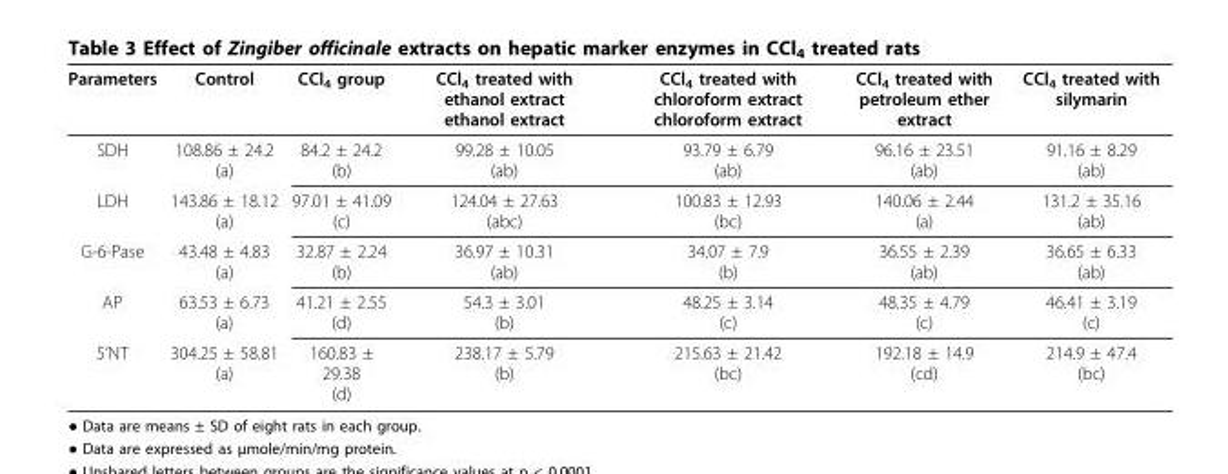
<table><thead><tr><td>Parameters</td><td>Control</td><td>CCl<sub>4</sub> group</td><td>CCl<sub>4</sub> treated with ethanol extract ethanol extract</td><td>CCl<sub>4</sub> treated with chloroform extract chloroform extract</td><td>CCl<sub>4</sub> treated with petroleum ether extract</td><td>CCl<sub>4</sub> treated with silymarin</td></tr></thead><tbody><tr><td>SDH</td><td>108.86 ± 24.2 (a)</td><td>84.2 ± 24.2 (b)</td><td>99.28 ± 10.05 (ab)</td><td>93.79 ± 6.79 (ab)</td><td>96.16 ± 23.51 (ab)</td><td>91.16 ± 8.29 (ab)</td></tr><tr><td>LDH</td><td>143.86 ± 18.12 (a)</td><td>97.01 ± 41.09 (c)</td><td>124.04 ± 27.63 (abc)</td><td>100.83 ± 12.93 (bc)</td><td>140.06 ± 2.44 (a)</td><td>131.2 ± 35.16 (ab)</td></tr><tr><td>G-6-Pase</td><td>43.48 ± 4.83 (a)</td><td>32.87 ± 2.24 (b)</td><td>36.97 ± 10.31 (ab)</td><td>34.07 ± 7.9 (b)</td><td>36.55 ± 2.39 (ab)</td><td>36.65 ± 6.33 (ab)</td></tr><tr><td>AP</td><td>63.53 ± 6.73 (a)</td><td>41.21 ± 2.55 (d)</td><td>54.3 ± 3.01 (b)</td><td>48.25 ± 3.14 (c)</td><td>48.35 ± 4.79 (c)</td><td>46.41 ± 3.19 (c)</td></tr><tr><td>5’NT</td><td>304.25 ± 58.81 (a)</td><td>160.83 ± 29.38 (d)</td><td>238.17 ± 5.79 (b)</td><td>215.63 ± 21.42 (bc)</td><td>192.18 ± 14.9 (cd)</td><td>214.9 ± 47.4 (bc)</td></tr></tbody></table>